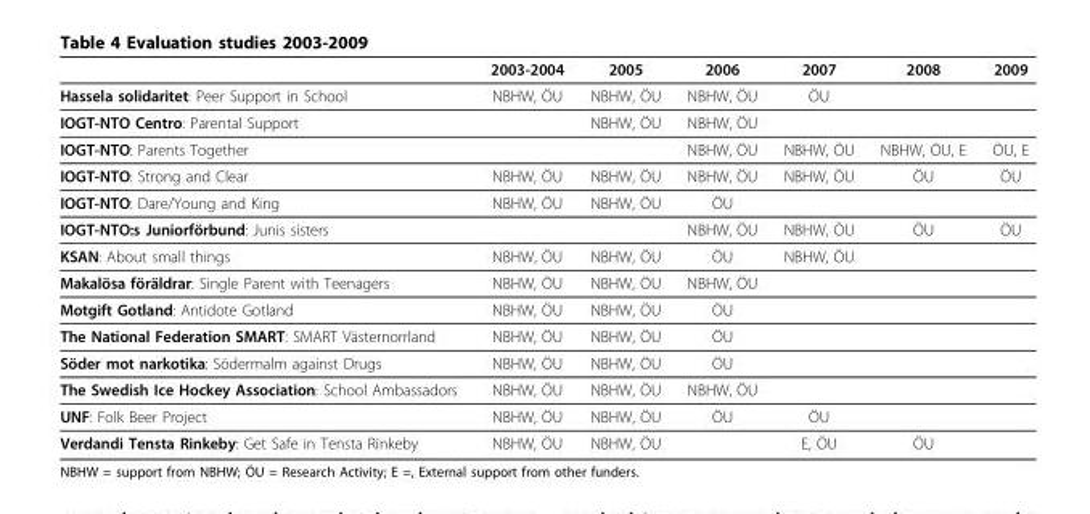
<table><thead><tr><td></td><td>2003-2004</td><td>2005</td><td>2006</td><td>2007</td><td>2008</td><td>2009</td></tr></thead><tbody><tr><td>Hassela solidaritet: Peer Support in School</td><td>NBHW, ÖU</td><td>NBHW, ÖU</td><td>NBHW, ÖU</td><td>ÖU</td><td></td><td></td></tr><tr><td>IOGT-NTO Centro: Parental Support</td><td></td><td>NBHW, ÖU</td><td>NBHW, ÖU</td><td></td><td></td><td></td></tr><tr><td>IOGT-NTO: Parents Together</td><td></td><td></td><td>NBHW, ÖU</td><td>NBHW, ÖU</td><td>NBHW, ÖU, E</td><td>ÖU, E</td></tr><tr><td>IOGT-NTO: Strong and Clear</td><td>NBHW, ÖU</td><td>NBHW, ÖU</td><td>NBHW, ÖU</td><td>NBHW, ÖU</td><td>ÖU</td><td>ÖU</td></tr><tr><td>IOGT-NTO: Dare/Young and King</td><td>NBHW, ÖU</td><td>NBHW, ÖU</td><td>ÖU</td><td></td><td></td><td></td></tr><tr><td>IOGT-NTO:s Juniorförbund: Junis sisters</td><td></td><td></td><td>NBHW, ÖU</td><td>NBHW, ÖU</td><td>ÖU</td><td>ÖU</td></tr><tr><td>KSAN: About small things</td><td>NBHW, ÖU</td><td>NBHW, ÖU</td><td>ÖU</td><td>NBHW, ÖU</td><td></td><td></td></tr><tr><td>Makalösa föräldrar: Single Parent with Teenagers</td><td>NBHW, ÖU</td><td>NBHW, ÖU</td><td>NBHW, ÖU</td><td></td><td></td><td></td></tr><tr><td>Motgift Gotland: Antidote Gotland</td><td>NBHW, ÖU</td><td>NBHW, ÖU</td><td>ÖU</td><td></td><td></td><td></td></tr><tr><td>The National Federation SMART: SMART Västernorrland</td><td>NBHW, ÖU</td><td>NBHW, ÖU</td><td>ÖU</td><td></td><td></td><td></td></tr><tr><td>Söder mot narkotika: Södermalm against Drugs</td><td>NBHW, ÖU</td><td>NBHW, ÖU</td><td>ÖU</td><td></td><td></td><td></td></tr><tr><td>The Swedish Ice Hockey Association: School Ambassadors</td><td>NBHW, ÖU</td><td>NBHW, ÖU</td><td>NBHW, ÖU</td><td></td><td></td><td></td></tr><tr><td>UNF: Folk Beer Project</td><td>NBHW, ÖU</td><td>NBHW, ÖU</td><td>ÖU</td><td>ÖU</td><td></td><td></td></tr><tr><td>Verdandi Tensta Rinkeby: Get Safe in Tensta Rinkeby</td><td>NBHW, ÖU</td><td>NBHW, ÖU</td><td></td><td>E, ÖU</td><td>ÖU</td><td></td></tr></tbody></table>